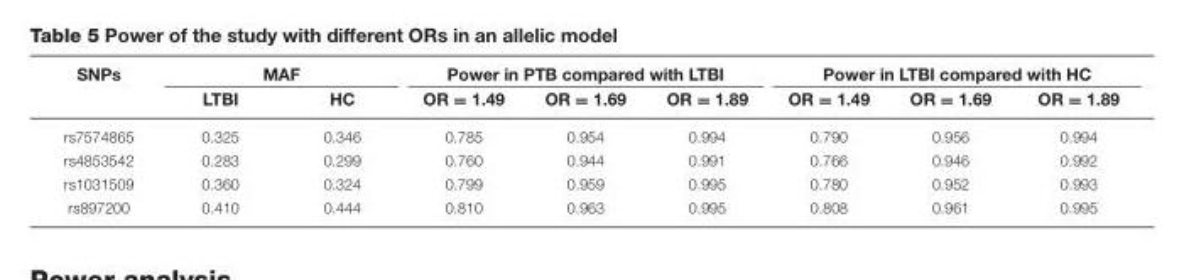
<table><thead><tr><td rowspan="2">SNPs</td><td colspan="2">MAF</td><td colspan="3">Power in PTB compared with LTBI</td><td colspan="3">Power in LTBI compared with HC</td></tr><tr><td>LTBI</td><td>HC</td><td>OR = 1.49</td><td>OR = 1.69</td><td>OR = 1.89</td><td>OR = 1.49</td><td>OR = 1.69</td><td>OR = 1.89</td></tr></thead><tbody><tr><td>rs7574865</td><td>0.325</td><td>0.346</td><td>0.785</td><td>0.954</td><td>0.994</td><td>0.790</td><td>0.956</td><td>0.994</td></tr><tr><td>rs4853542</td><td>0.283</td><td>0.299</td><td>0.760</td><td>0.944</td><td>0.991</td><td>0.766</td><td>0.946</td><td>0.992</td></tr><tr><td>rs1031509</td><td>0.360</td><td>0.324</td><td>0.799</td><td>0.959</td><td>0.995</td><td>0.780</td><td>0.952</td><td>0.993</td></tr><tr><td>rs897200</td><td>0.410</td><td>0.444</td><td>0.810</td><td>0.963</td><td>0.995</td><td>0.808</td><td>0.961</td><td>0.995</td></tr></tbody></table>